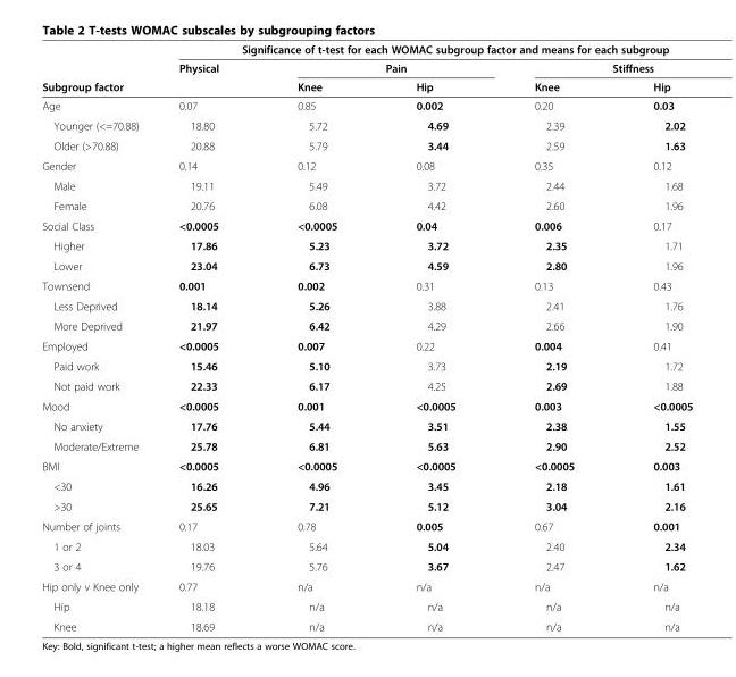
<table><thead><tr><td rowspan="3">Subgroup factor</td><td colspan="5">Significance of t-test for each WOMAC subgroup factor and means for each subgroup</td></tr><tr><td rowspan="2">Physical</td><td colspan="2">Pain</td><td colspan="2">Stiffness</td></tr><tr><td>Knee</td><td>Hip</td><td>Knee</td><td>Hip</td></tr></thead><tbody><tr><td>Age</td><td>0.07</td><td>0.85</td><td>0.002</td><td>0.20</td><td>0.03</td></tr><tr><td>Younger (&lt;=70.88)</td><td>18.80</td><td>5.72</td><td>4.69</td><td>2.39</td><td>2.02</td></tr><tr><td>Older (&gt;70.88)</td><td>20.88</td><td>5.79</td><td>3.44</td><td>2.59</td><td>1.63</td></tr><tr><td>Gender</td><td>0.14</td><td>0.12</td><td>0.08</td><td>0.35</td><td>0.12</td></tr><tr><td>Male</td><td>19.11</td><td>5.49</td><td>3.72</td><td>2.44</td><td>1.68</td></tr><tr><td>Female</td><td>20.76</td><td>6.08</td><td>4.42</td><td>2.60</td><td>1.96</td></tr><tr><td>Social Class</td><td>&lt;0.0005</td><td>&lt;0.0005</td><td>0.04</td><td>0.006</td><td>0.17</td></tr><tr><td>Higher</td><td>17.86</td><td>5.23</td><td>3.72</td><td>2.35</td><td>1.71</td></tr><tr><td>Lower</td><td>23.04</td><td>6.73</td><td>4.59</td><td>2.80</td><td>1.96</td></tr><tr><td>Townsend</td><td>0.001</td><td>0.002</td><td>0.31</td><td>0.13</td><td>0.43</td></tr><tr><td>Less Deprived</td><td>18.14</td><td>5.26</td><td>3.88</td><td>2.41</td><td>1.76</td></tr><tr><td>More Deprived</td><td>21.97</td><td>6.42</td><td>4.29</td><td>2.66</td><td>1.90</td></tr><tr><td>Employed</td><td>&lt;0.0005</td><td>0.007</td><td>0.22</td><td>0.004</td><td>0.41</td></tr><tr><td>Paid work</td><td>15.46</td><td>5.10</td><td>3.73</td><td>2.19</td><td>1.72</td></tr><tr><td>Not paid work</td><td>22.33</td><td>6.17</td><td>4.25</td><td>2.69</td><td>1.88</td></tr><tr><td>Mood</td><td>&lt;0.0005</td><td>0.001</td><td>&lt;0.0005</td><td>0.003</td><td>&lt;0.0005</td></tr><tr><td>No anxiety</td><td>17.76</td><td>5.44</td><td>3.51</td><td>2.38</td><td>1.55</td></tr><tr><td>Moderate/Extreme</td><td>25.78</td><td>6.81</td><td>5.63</td><td>2.90</td><td>2.52</td></tr><tr><td>BMI</td><td>&lt;0.0005</td><td>&lt;0.0005</td><td>&lt;0.0005</td><td>&lt;0.0005</td><td>0.003</td></tr><tr><td>&lt;30</td><td>16.26</td><td>4.96</td><td>3.45</td><td>2.18</td><td>1.61</td></tr><tr><td>&gt;30</td><td>25.65</td><td>7.21</td><td>5.12</td><td>3.04</td><td>2.16</td></tr><tr><td>Number of joints</td><td>0.17</td><td>0.78</td><td>0.005</td><td>0.67</td><td>0.001</td></tr><tr><td>1 or 2</td><td>18.03</td><td>5.64</td><td>5.04</td><td>2.40</td><td>2.34</td></tr><tr><td>3 or 4</td><td>19.76</td><td>5.76</td><td>3.67</td><td>2.47</td><td>1.62</td></tr><tr><td>Hip only v Knee only</td><td>0.77</td><td>n/a</td><td>n/a</td><td>n/a</td><td>n/a</td></tr><tr><td>Hip</td><td>18.18</td><td>n/a</td><td>n/a</td><td>n/a</td><td>n/a</td></tr><tr><td>Knee</td><td>18.69</td><td>n/a</td><td>n/a</td><td>n/a</td><td>n/a</td></tr></tbody></table>